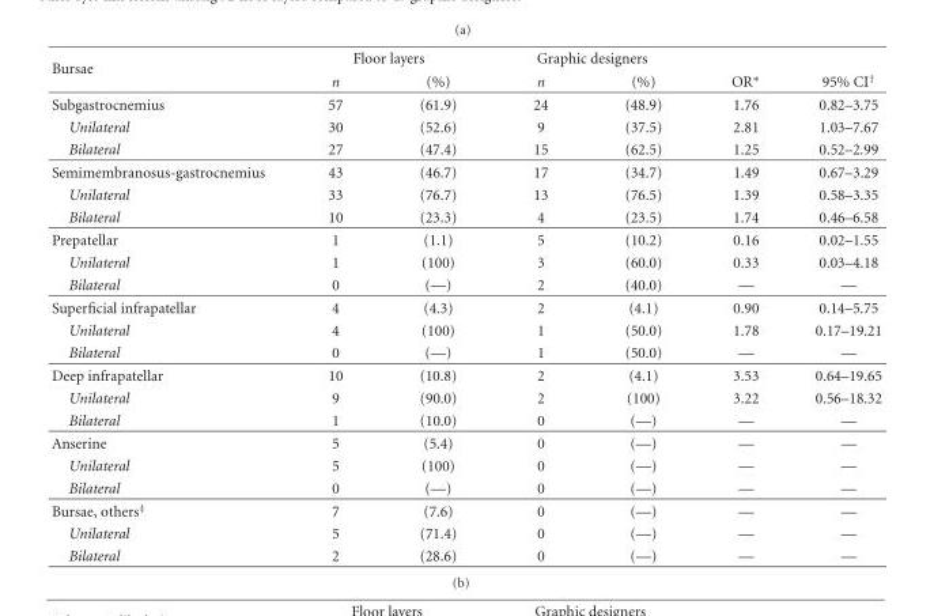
<table><thead><tr><td rowspan="2">Bursae</td><td colspan="2">Floor layers</td><td colspan="2">Graphic designers</td><td rowspan="2">OR∗</td><td rowspan="2">95% CI<sup>†</sup></td></tr><tr><td>n</td><td>(%)</td><td>n</td><td>(%)</td></tr></thead><tbody><tr><td>Subgastrocnemius</td><td>57</td><td>(61.9)</td><td>24</td><td>(48.9)</td><td>1.76</td><td>0.82–3.75</td></tr><tr><td>Unilateral</td><td>30</td><td>(52.6)</td><td>9</td><td>(37.5)</td><td>2.81</td><td>1.03–7.67</td></tr><tr><td>Bilateral</td><td>27</td><td>(47.4)</td><td>15</td><td>(62.5)</td><td>1.25</td><td>0.52–2.99</td></tr><tr><td>Semimembranosus-gastrocnemius</td><td>43</td><td>(46.7)</td><td>17</td><td>(34.7)</td><td>1.49</td><td>0.67–3.29</td></tr><tr><td>Unilateral</td><td>33</td><td>(76.7)</td><td>13</td><td>(76.5)</td><td>1.39</td><td>0.58–3.35</td></tr><tr><td>Bilateral</td><td>10</td><td>(23.3)</td><td>4</td><td>(23.5)</td><td>1.74</td><td>0.46–6.58</td></tr><tr><td>Prepatellar</td><td>1</td><td>(1.1)</td><td>5</td><td>(10.2)</td><td>0.16</td><td>0.02–1.55</td></tr><tr><td>Unilateral</td><td>1</td><td>(100)</td><td>3</td><td>(60.0)</td><td>0.33</td><td>0.03–4.18</td></tr><tr><td>Bilateral</td><td>0</td><td>(—)</td><td>2</td><td>(40.0)</td><td>—</td><td>—</td></tr><tr><td>Superficial infrapatellar</td><td>4</td><td>(4.3)</td><td>2</td><td>(4.1)</td><td>0.90</td><td>0.14–5.75</td></tr><tr><td>Unilateral</td><td>4</td><td>(100)</td><td>1</td><td>(50.0)</td><td>1.78</td><td>0.17–19.21</td></tr><tr><td>Bilateral</td><td>0</td><td>(—)</td><td>1</td><td>(50.0)</td><td>—</td><td>—</td></tr><tr><td>Deep infrapatellar</td><td>10</td><td>(10.8)</td><td>2</td><td>(4.1)</td><td>3.53</td><td>0.64–19.65</td></tr><tr><td>Unilateral</td><td>9</td><td>(90.0)</td><td>2</td><td>(100)</td><td>3.22</td><td>0.56–18.32</td></tr><tr><td>Bilateral</td><td>1</td><td>(10.0)</td><td>0</td><td>(—)</td><td>—</td><td>—</td></tr><tr><td>Anserine</td><td>5</td><td>(5.4)</td><td>0</td><td>(—)</td><td>—</td><td>—</td></tr><tr><td>Unilateral</td><td>5</td><td>(100)</td><td>0</td><td>(—)</td><td>—</td><td>—</td></tr><tr><td>Bilateral</td><td>0</td><td>(—)</td><td>0</td><td>(—)</td><td>—</td><td>—</td></tr><tr><td>Bursae, others<sup>‡</sup></td><td>7</td><td>(7.6)</td><td>0</td><td>(—)</td><td>—</td><td>—</td></tr><tr><td>Unilateral</td><td>5</td><td>(71.4)</td><td>0</td><td>(—)</td><td>—</td><td>—</td></tr><tr><td>Bilateral</td><td>2</td><td>(28.6)</td><td>0</td><td>(—)</td><td>—</td><td>—</td></tr></tbody></table>